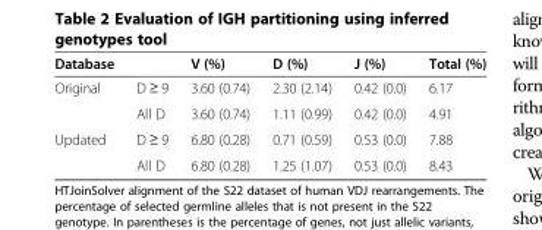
<table><thead><tr><td>Database</td><td></td><td>V (%)</td><td>D (%)</td><td>J (%)</td><td>Total (%)</td></tr></thead><tbody><tr><td rowspan="2">Original</td><td>D ≥ 9</td><td>3.60 (0.74)</td><td>2.30 (2.14)</td><td>0.42 (0.0)</td><td>6.17</td></tr><tr><td>All D</td><td>3.60 (0.74)</td><td>1.11 (0.99)</td><td>0.42 (0.0)</td><td>4.91</td></tr><tr><td rowspan="2">Updated</td><td>D ≥ 9</td><td>6.80 (0.28)</td><td>0.71 (0.59)</td><td>0.53 (0.0)</td><td>7.88</td></tr><tr><td>All D</td><td>6.80 (0.28)</td><td>1.25 (1.07)</td><td>0.53 (0.0)</td><td>8.43</td></tr></tbody></table>